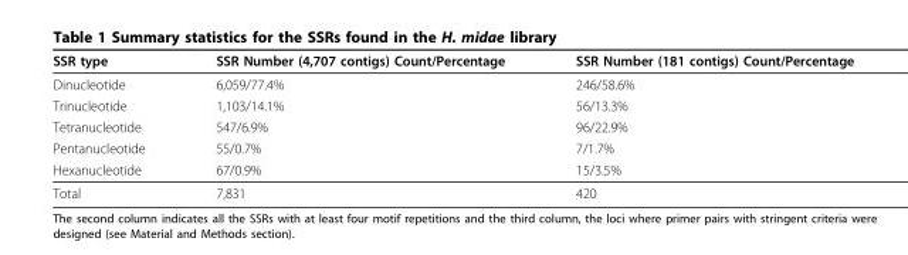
<table><thead><tr><td>SSR type</td><td>SSR Number (4,707 contigs) Count/Percentage</td><td>SSR Number (181 contigs) Count/Percentage</td></tr></thead><tbody><tr><td>Dinucleotide</td><td>6,059/77.4%</td><td>246/58.6%</td></tr><tr><td>Trinucleotide</td><td>1,103/14.1%</td><td>56/13.3%</td></tr><tr><td>Tetranucleotide</td><td>547/6.9%</td><td>96/22.9%</td></tr><tr><td>Pentanucleotide</td><td>55/0.7%</td><td>7/1.7%</td></tr><tr><td>Hexanucleotide</td><td>67/0.9%</td><td>15/3.5%</td></tr><tr><td>Total</td><td>7,831</td><td>420</td></tr></tbody></table>